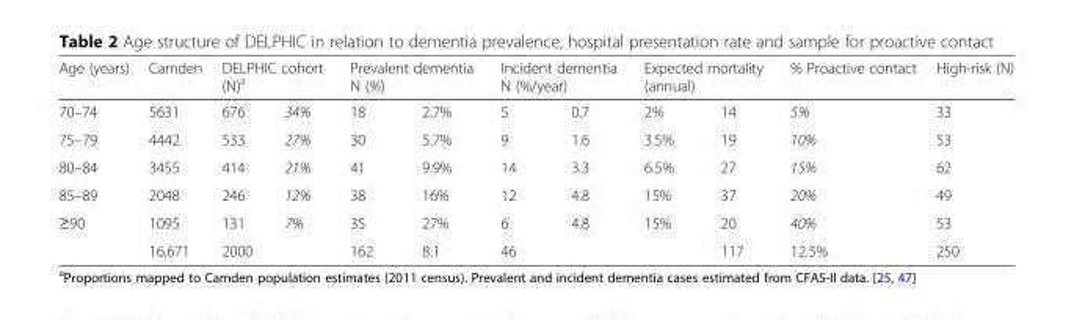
<table><thead><tr><td rowspan="2">Age (years) 70–74</td><td rowspan="2">Camden 5631</td><td colspan="2">DELPHIC cohort (N)<sup>a</sup></td><td colspan="2">Prevalent dementia N (%)</td><td colspan="2">Incident dementia N (%/year)</td><td colspan="2">Expected mortality (annual)</td><td rowspan="2">% Proactive contact 5%</td><td rowspan="2">High-risk (N) 33</td></tr><tr><td>676</td><td>34%</td><td>18</td><td>2.7%</td><td>5</td><td>0.7</td><td>2%</td><td>14</td></tr></thead><tbody><tr><td>75–79</td><td>4442</td><td>533</td><td>27%</td><td>30</td><td>5.7%</td><td>9</td><td>1.6</td><td>3.5%</td><td>19</td><td>10%</td><td>53</td></tr><tr><td>80–84</td><td>3455</td><td>414</td><td>21%</td><td>41</td><td>9.9%</td><td>14</td><td>3.3</td><td>6.5%</td><td>27</td><td>15%</td><td>62</td></tr><tr><td>85–89</td><td>2048</td><td>246</td><td>12%</td><td>38</td><td>16%</td><td>12</td><td>4.8</td><td>15%</td><td>37</td><td>20%</td><td>49</td></tr><tr><td rowspan="2">≥90</td><td>1095</td><td>131</td><td>7%</td><td>35</td><td>27%</td><td>6</td><td>4.8</td><td>15%</td><td>20</td><td>40%</td><td>53</td></tr><tr><td>16,671</td><td colspan="2">2000</td><td>162</td><td>8.1</td><td>46</td><td colspan="2"></td><td>117</td><td>12.5%</td><td>250</td></tr></tbody></table>